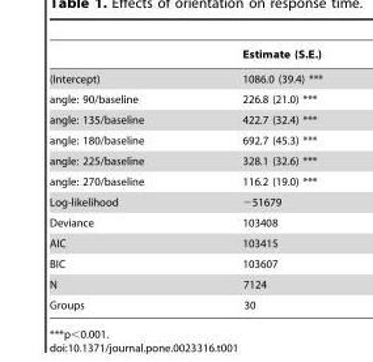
<table><thead><tr><td></td><td>Estimate (S.E.)</td></tr></thead><tbody><tr><td>(Intercept)</td><td>1086.0 (39.4) ***</td></tr><tr><td>angle: 90/baseline</td><td>226.8 (21.0) ***</td></tr><tr><td>angle: 135/baseline</td><td>422.7 (32.4) ***</td></tr><tr><td>angle: 180/baseline</td><td>692.7 (45.3) ***</td></tr><tr><td>angle: 225/baseline</td><td>328.1 (32.6) ***</td></tr><tr><td>angle: 270/baseline</td><td>116.2 (19.0) ***</td></tr><tr><td colspan="2">Log-likelihood −51679</td></tr><tr><td colspan="2">Deviance 103408</td></tr><tr><td colspan="2">AIC 103415</td></tr><tr><td colspan="2">BIC 103607</td></tr><tr><td colspan="2">N 7124</td></tr><tr><td colspan="2">Groups 30</td></tr></tbody></table>